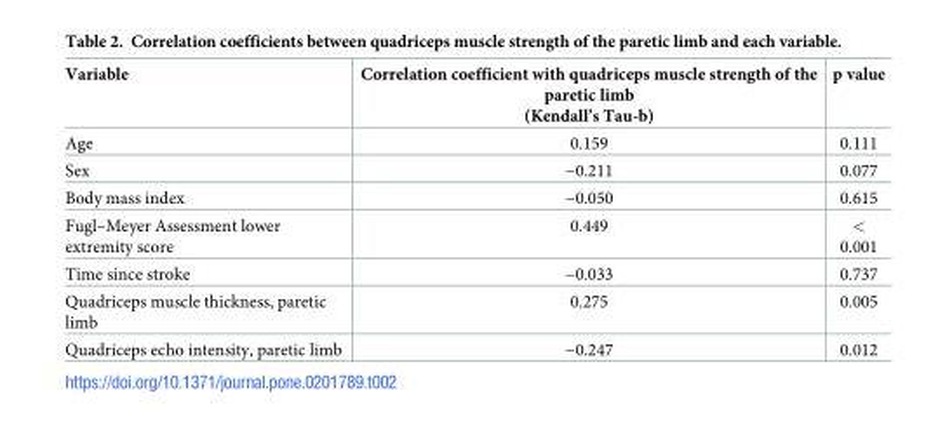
<table><thead><tr><td>Variable</td><td>Correlation coefficient with quadriceps muscle strength of the paretic limb (Kendall’s Tau-b)</td><td>p value</td></tr></thead><tbody><tr><td>Age</td><td>0.159</td><td>0.111</td></tr><tr><td>Sex</td><td>−0.211</td><td>0.077</td></tr><tr><td>Body mass index</td><td>−0.050</td><td>0.615</td></tr><tr><td>Fugl–Meyer Assessment lower extremity score</td><td>0.449</td><td>&lt; 0.001</td></tr><tr><td>Time since stroke</td><td>−0.033</td><td>0.737</td></tr><tr><td>Quadriceps muscle thickness, paretic limb</td><td>0.275</td><td>0.005</td></tr><tr><td>Quadriceps echo intensity, paretic limb</td><td>−0.247</td><td>0.012</td></tr></tbody></table>